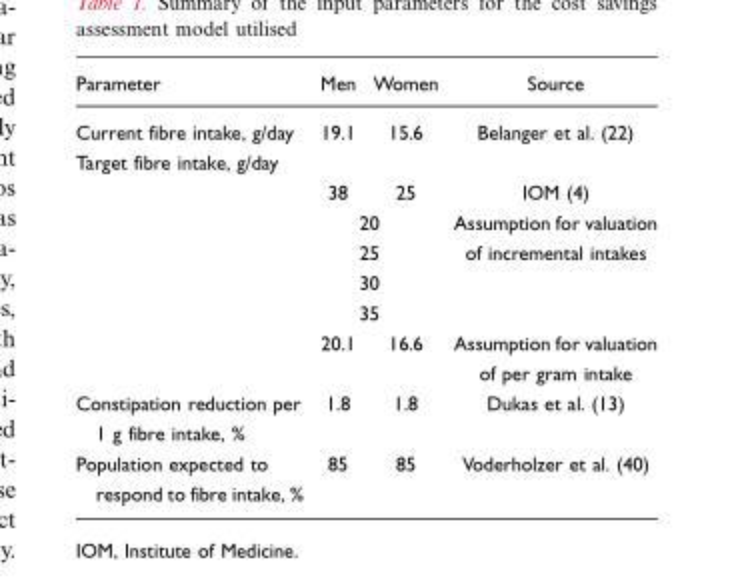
<table><thead><tr><td>Parameter</td><td>Men</td><td>Women</td><td>Source</td></tr></thead><tbody><tr><td>Current fibre intake, g/day</td><td>19.1</td><td>15.6</td><td>Belanger et al. (22)</td></tr><tr><td colspan="4">Target fibre intake, g/day</td></tr><tr><td></td><td>38</td><td>25</td><td>IOM (4)</td></tr><tr><td></td><td colspan="2">20</td><td>Assumption for valuation</td></tr><tr><td></td><td colspan="2">25</td><td>of incremental intakes</td></tr><tr><td></td><td colspan="2">30</td><td></td></tr><tr><td></td><td colspan="2">35</td><td></td></tr><tr><td></td><td>20.1</td><td>16.6</td><td>Assumption for valuation of per gram intake</td></tr><tr><td>Constipation reduction per 1 g fibre intake, %</td><td>1.8</td><td>1.8</td><td>Dukas et al. (13)</td></tr><tr><td>Population expected to respond to fibre intake, %</td><td>85</td><td>85</td><td>Voderholzer et al. (40)</td></tr></tbody></table>